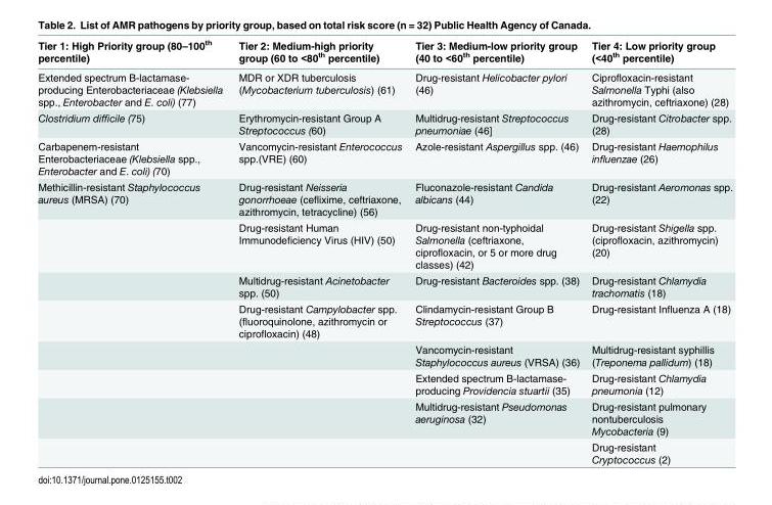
<table><thead><tr><td>Tier 1: High Priority group (80–100<sup>th</sup> percentile)</td><td>Tier 2: Medium-high priority group (60 to &lt;80<sup>th</sup> percentile)</td><td>Tier 3: Medium-low priority group (40 to &lt;60<sup>th</sup> percentile)</td><td>Tier 4: Low priority group (&lt;40<sup>th</sup> percentile)</td></tr></thead><tbody><tr><td>Extended spectrum B-lactamase- producing Enterobacteriaceae (Klebsiella spp., Enterobacter and E. coli) (77)</td><td>MDR or XDR tuberculosis (Mycobacterium tuberculosis) (61)</td><td>Drug-resistant Helicobacter pylori (46)</td><td>Ciprofloxacin-resistant Salmonella Typhi (also azithromycin, ceftriaxone) (28)</td></tr><tr><td>Clostridium difficile (75)</td><td>Erythromycin-resistant Group A Streptococcus (60)</td><td>Multidrug-resistant Streptococcus pneumoniae (46]</td><td>Drug-resistant Citrobacter spp. (28)</td></tr><tr><td>Carbapenem-resistant Enterobacteriaceae (Klebsiella spp., Enterobacter and E. coli) (70)</td><td>Vancomycin-resistant Enterococcus spp.(VRE) (60)</td><td>Azole-resistant Aspergillus spp. (46)</td><td>Drug-resistant Haemophilus influenzae (26)</td></tr><tr><td rowspan="8">Methicillin-resistant Staphylococcus aureus (MRSA) (70)</td><td>Drug-resistant Neisseria gonorrhoeae (ceflixime, ceftriaxone, azithromycin, tetracycline) (56)</td><td>Fluconazole-resistant Candida albicans (44)</td><td>Drug-resistant Aeromonas spp. (22)</td></tr><tr><td>Drug-resistant Human Immunodeficiency Virus (HIV) (50)</td><td>Drug-resistant non-typhoidal Salmonella (ceftriaxone, ciprofloxacin, or 5 or more drug classes) (42)</td><td>Drug-resistant Shigella spp. (ciprofloxacin, azithromycin) (20)</td></tr><tr><td>Multidrug-resistant Acinetobacter spp. (50)</td><td>Drug-resistant Bacteroides spp. (38)</td><td>Drug-resistant Chlamydia trachomatis (18)</td></tr><tr><td>Drug-resistant Campylobacter spp. (fluoroquinolone, azithromycin or ciprofloxacin) (48)</td><td>Clindamycin-resistant Group B Streptococcus (37)</td><td>Drug-resistant Influenza A (18)</td></tr><tr><td></td><td>Vancomycin-resistant Staphylococcus aureus (VRSA) (36)</td><td>Multidrug-resistant syphillis (Treponema pallidum) (18)</td></tr><tr><td></td><td>Extended spectrum B-lactamase- producing Providencia stuartii (35)</td><td>Drug-resistant Chlamydia pneumonia (12)</td></tr><tr><td></td><td>Multidrug-resistant Pseudomonas aeruginosa (32)</td><td>Drug-resistant pulmonary nontuberculosis Mycobacteria (9)</td></tr><tr><td></td><td></td><td>Drug-resistant Cryptococcus (2)</td></tr></tbody></table>